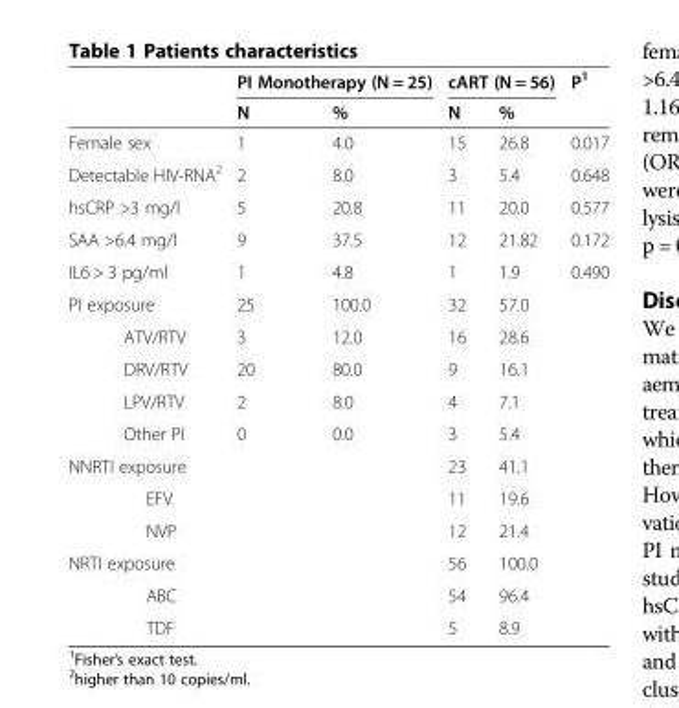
<table><thead><tr><td rowspan="2"></td><td colspan="2">PI Monotherapy (N = 25)</td><td colspan="2">cART (N = 56)</td><td rowspan="2">P<sup>1</sup></td></tr><tr><td>N</td><td>%</td><td>N</td><td>%</td></tr></thead><tbody><tr><td>Female sex</td><td>1</td><td>4.0</td><td>15</td><td>26.8</td><td>0.017</td></tr><tr><td>Detectable HIV-RNA<sup>2</sup></td><td>2</td><td>8.0</td><td>3</td><td>5.4</td><td>0.648</td></tr><tr><td>hsCRP &gt;3 mg/l</td><td>5</td><td>20.8</td><td>11</td><td>20.0</td><td>0.577</td></tr><tr><td>SAA &gt;6.4 mg/l</td><td>9</td><td>37.5</td><td>12</td><td>21.82</td><td>0.172</td></tr><tr><td>IL6 &gt; 3 pg/ml</td><td>1</td><td>4.8</td><td>1</td><td>1.9</td><td>0.490</td></tr><tr><td>PI exposure</td><td>25</td><td>100.0</td><td>32</td><td>57.0</td><td></td></tr><tr><td>ATV/RTV</td><td>3</td><td>12.0</td><td>16</td><td>28.6</td><td></td></tr><tr><td>DRV/RTV</td><td>20</td><td>80.0</td><td>9</td><td>16.1</td><td></td></tr><tr><td>LPV/RTV</td><td>2</td><td>8.0</td><td>4</td><td>7.1</td><td></td></tr><tr><td>Other PI</td><td>0</td><td>0.0</td><td>3</td><td>5.4</td><td></td></tr><tr><td>NNRTI exposure</td><td></td><td></td><td>23</td><td>41.1</td><td></td></tr><tr><td>EFV</td><td></td><td></td><td>11</td><td>19.6</td><td></td></tr><tr><td>NVP</td><td></td><td></td><td>12</td><td>21.4</td><td></td></tr><tr><td>NRTI exposure</td><td></td><td></td><td>56</td><td>100.0</td><td></td></tr><tr><td>ABC</td><td></td><td></td><td>54</td><td>96.4</td><td></td></tr><tr><td>TDF</td><td></td><td></td><td>5</td><td>8.9</td><td></td></tr></tbody></table>